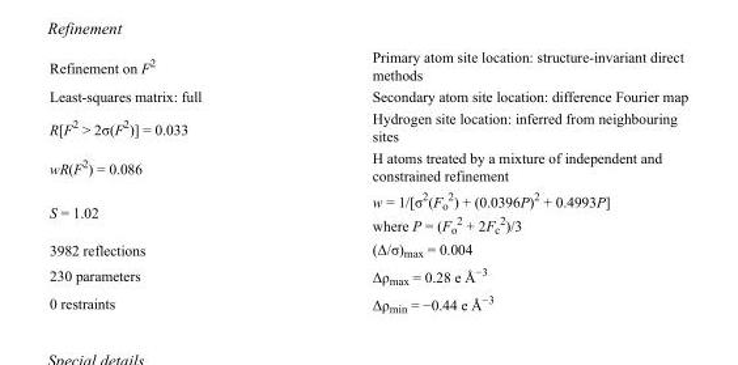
<table><tbody><tr><td>Refinement on F<sup>2</sup></td><td>Primary atom site location: structure-invariant direct methods</td></tr><tr><td>Least-squares matrix: full</td><td>Secondary atom site location: difference Fourier map</td></tr><tr><td>R[F<sup>2</sup> &gt; 2σ(F<sup>2</sup>)] = 0.033</td><td>Hydrogen site location: inferred from neighbouring sites</td></tr><tr><td>wR(F<sup>2</sup>) = 0.086</td><td>H atoms treated by a mixture of independent and constrained refinement</td></tr><tr><td>S = 1.02</td><td>w = 1/[σ<sup>2</sup>(F<sub>o</sub> <sup>2</sup>) + (0.0396P)<sup>2</sup> + 0.4993P] where P = (F<sub>o</sub> <sup>2</sup> + 2F<sub>c</sub> <sup>2</sup>)/3</td></tr><tr><td>3982 reflections</td><td>(Δ/σ)<sub>max</sub> = 0.004</td></tr><tr><td>230 parameters</td><td>Δρ<sub>max</sub> = 0.28 e Å<sup>−3</sup></td></tr><tr><td>0 restraints</td><td>Δρ<sub>min</sub> = −0.44 e Å<sup>−3</sup></td></tr></tbody></table>